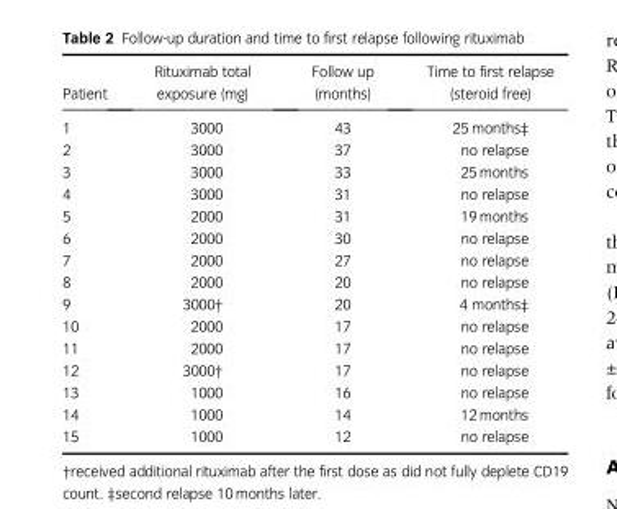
<table><thead><tr><td>Patient</td><td>Rituximab total exposure (mg)</td><td>Follow up (months)</td><td>Time to first relapse (steroid free)</td></tr></thead><tbody><tr><td>1</td><td>3000</td><td>43</td><td>25 months‡</td></tr><tr><td>2</td><td>3000</td><td>37</td><td>no relapse</td></tr><tr><td>3</td><td>3000</td><td>33</td><td>25 months</td></tr><tr><td>4</td><td>3000</td><td>31</td><td>no relapse</td></tr><tr><td>5</td><td>2000</td><td>31</td><td>19 months</td></tr><tr><td>6</td><td>2000</td><td>30</td><td>no relapse</td></tr><tr><td>7</td><td>2000</td><td>27</td><td>no relapse</td></tr><tr><td>8</td><td>2000</td><td>20</td><td>no relapse</td></tr><tr><td>9</td><td>3000†</td><td>20</td><td>4 months‡</td></tr><tr><td>10</td><td>2000</td><td>17</td><td>no relapse</td></tr><tr><td>11</td><td>2000</td><td>17</td><td>no relapse</td></tr><tr><td>12</td><td>3000†</td><td>17</td><td>no relapse</td></tr><tr><td>13</td><td>1000</td><td>16</td><td>no relapse</td></tr><tr><td>14</td><td>1000</td><td>14</td><td>12 months</td></tr><tr><td>15</td><td>1000</td><td>12</td><td>no relapse</td></tr></tbody></table>